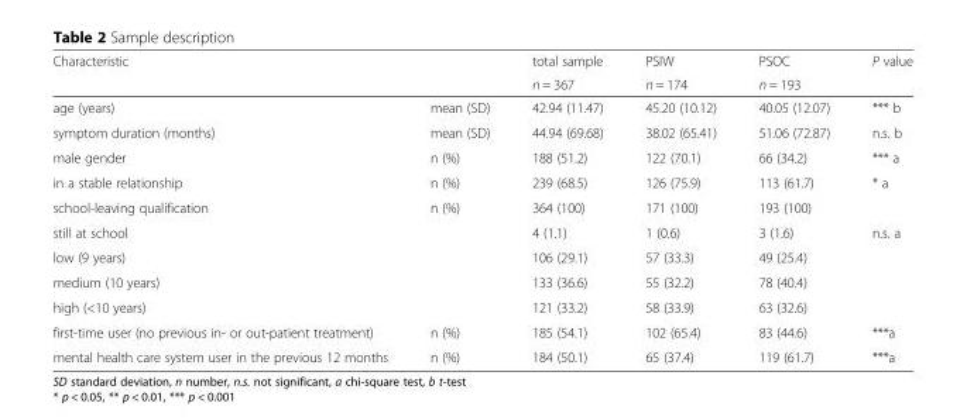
<table><thead><tr><td rowspan="2">Characteristic</td><td rowspan="2"></td><td rowspan="2">total sample n = 367</td><td rowspan="2">PSIW n = 174</td><td rowspan="2">PSOC n = 193</td><td rowspan="2">P value</td></tr><tr></tr></thead><tbody><tr><td>age (years)</td><td>mean (SD)</td><td>42.94 (11.47)</td><td>45.20 (10.12)</td><td>40.05 (12.07)</td><td>*** b</td></tr><tr><td>symptom duration (months)</td><td>mean (SD)</td><td>44.94 (69.68)</td><td>38.02 (65.41)</td><td>51.06 (72.87)</td><td>n.s. b</td></tr><tr><td>male gender</td><td>n (%)</td><td>188 (51.2)</td><td>122 (70.1)</td><td>66 (34.2)</td><td>*** a</td></tr><tr><td>in a stable relationship</td><td>n (%)</td><td>239 (68.5)</td><td>126 (75.9)</td><td>113 (61.7)</td><td>* a</td></tr><tr><td>school-leaving qualification</td><td>n (%)</td><td>364 (100)</td><td>171 (100)</td><td>193 (100)</td><td></td></tr><tr><td>still at school</td><td></td><td>4 (1.1)</td><td>1 (0.6)</td><td>3 (1.6)</td><td rowspan="4">n.s. a</td></tr><tr><td>low (9 years)</td><td></td><td>106 (29.1)</td><td>57 (33.3)</td><td>49 (25.4)</td></tr><tr><td>medium (10 years)</td><td></td><td>133 (36.6)</td><td>55 (32.2)</td><td>78 (40.4)</td></tr><tr><td>high (&lt;10 years)</td><td></td><td>121 (33.2)</td><td>58 (33.9)</td><td>63 (32.6)</td></tr><tr><td>first-time user (no previous in- or out-patient treatment)</td><td>n (%)</td><td>185 (54.1)</td><td>102 (65.4)</td><td>83 (44.6)</td><td>***a</td></tr><tr><td>mental health care system user in the previous 12 months</td><td>n (%)</td><td>184 (50.1)</td><td>65 (37.4)</td><td>119 (61.7)</td><td>***a</td></tr></tbody></table>